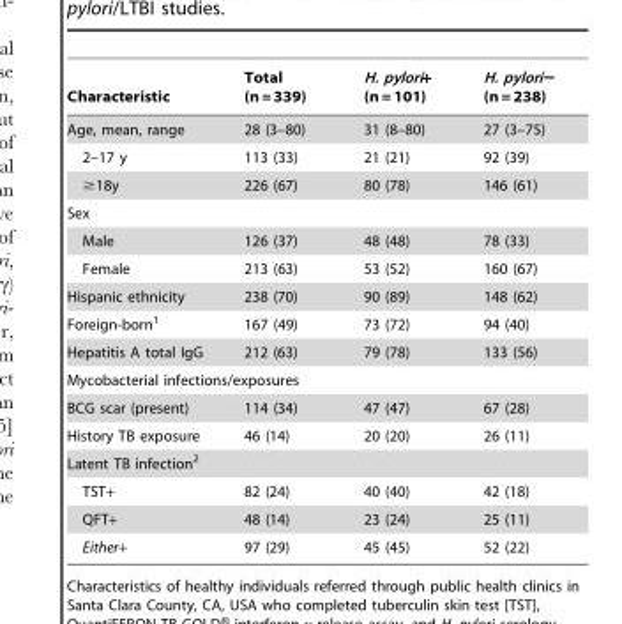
<table><thead><tr><td>Characteristic</td><td>Total (n = 339)</td><td>H. pylori+ (n = 101)</td><td>H. pylori− (n = 238)</td></tr></thead><tbody><tr><td>Age, mean, range</td><td>28 (3–80)</td><td>31 (8–80)</td><td>27 (3–75)</td></tr><tr><td>2–17 y</td><td>113 (33)</td><td>21 (21)</td><td>92 (39)</td></tr><tr><td>≥18y</td><td>226 (67)</td><td>80 (78)</td><td>146 (61)</td></tr><tr><td colspan="4">Sex</td></tr><tr><td>Male</td><td>126 (37)</td><td>48 (48)</td><td>78 (33)</td></tr><tr><td>Female</td><td>213 (63)</td><td>53 (52)</td><td>160 (67)</td></tr><tr><td>Hispanic ethnicity</td><td>238 (70)</td><td>90 (89)</td><td>148 (62)</td></tr><tr><td>Foreign-born<sup>1</sup></td><td>167 (49)</td><td>73 (72)</td><td>94 (40)</td></tr><tr><td>Hepatitis A total IgG</td><td>212 (63)</td><td>79 (78)</td><td>133 (56)</td></tr><tr><td colspan="4">Mycobacterial infections/exposures</td></tr><tr><td>BCG scar (present)</td><td>114 (34)</td><td>47 (47)</td><td>67 (28)</td></tr><tr><td>History TB exposure</td><td>46 (14)</td><td>20 (20)</td><td>26 (11)</td></tr><tr><td colspan="4">Latent TB infection<sup>2</sup></td></tr><tr><td>TST+</td><td>82 (24)</td><td>40 (40)</td><td>42 (18)</td></tr><tr><td>QFT+</td><td>48 (14)</td><td>23 (24)</td><td>25 (11)</td></tr><tr><td>Either+</td><td>97 (29)</td><td>45 (45)</td><td>52 (22)</td></tr></tbody></table>